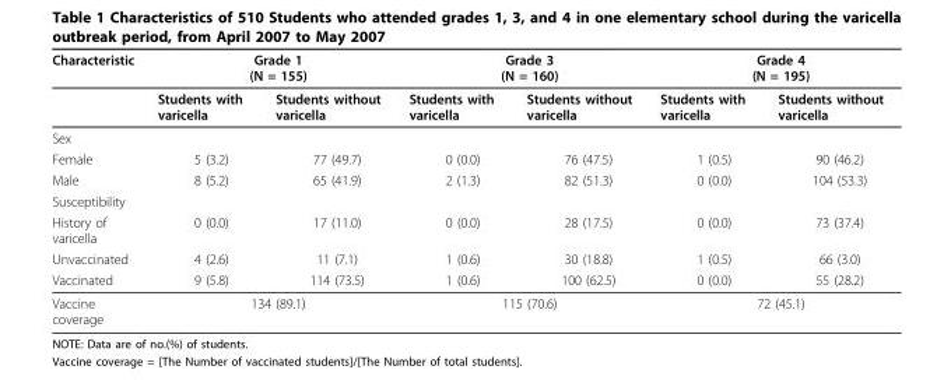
<table><thead><tr><td rowspan="2">Characteristic</td><td colspan="2">Grade 1 (N = 155)</td><td colspan="2">Grade 3 (N = 160)</td><td colspan="2">Grade 4 (N = 195)</td></tr><tr><td>Students with varicella</td><td>Students without varicella</td><td>Students with varicella</td><td>Students without varicella</td><td>Students with varicella</td><td>Students without varicella</td></tr></thead><tbody><tr><td colspan="7">Sex</td></tr><tr><td>Female</td><td>5 (3.2)</td><td>77 (49.7)</td><td>0 (0.0)</td><td>76 (47.5)</td><td>1 (0.5)</td><td>90 (46.2)</td></tr><tr><td>Male</td><td>8 (5.2)</td><td>65 (41.9)</td><td>2 (1.3)</td><td>82 (51.3)</td><td>0 (0.0)</td><td>104 (53.3)</td></tr><tr><td colspan="7">Susceptibility</td></tr><tr><td>History of varicella</td><td>0 (0.0)</td><td>17 (11.0)</td><td>0 (0.0)</td><td>28 (17.5)</td><td>0 (0.0)</td><td>73 (37.4)</td></tr><tr><td>Unvaccinated</td><td>4 (2.6)</td><td>11 (7.1)</td><td>1 (0.6)</td><td>30 (18.8)</td><td>1 (0.5)</td><td>66 (3.0)</td></tr><tr><td>Vaccinated</td><td>9 (5.8)</td><td>114 (73.5)</td><td>1 (0.6)</td><td>100 (62.5)</td><td>0 (0.0)</td><td>55 (28.2)</td></tr><tr><td>Vaccine coverage</td><td colspan="2">134 (89.1)</td><td colspan="2">115 (70.6)</td><td colspan="2">72 (45.1)</td></tr></tbody></table>